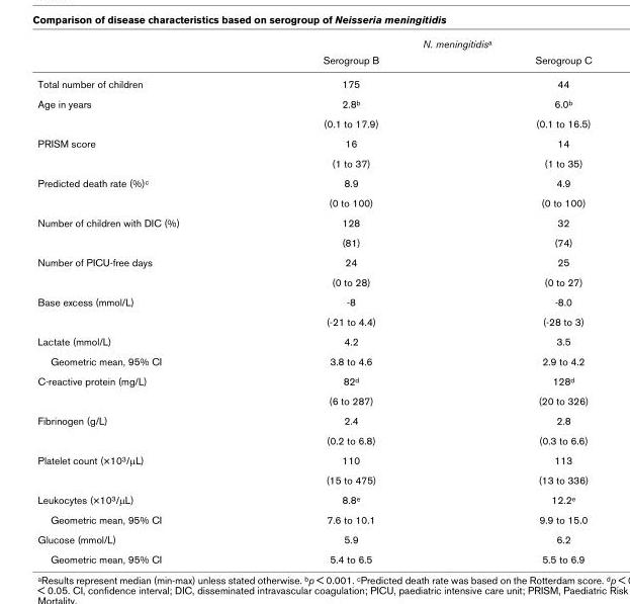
<table><thead><tr><td rowspan="2"></td><td colspan="2">N. meningitidis<sup>a</sup></td></tr><tr><td>Serogroup B</td><td>Serogroup C</td></tr></thead><tbody><tr><td>Total number of children</td><td>175</td><td>44</td></tr><tr><td rowspan="2">Age in years</td><td>2.8<sup>b</sup></td><td>6.0<sup>b</sup></td></tr><tr><td>(0.1 to 17.9)</td><td>(0.1 to 16.5)</td></tr><tr><td rowspan="2">PRISM score</td><td>16</td><td>14</td></tr><tr><td>(1 to 37)</td><td>(1 to 35)</td></tr><tr><td rowspan="2">Predicted death rate (%)<sup>c</sup></td><td>8.9</td><td>4.9</td></tr><tr><td>(0 to 100)</td><td>(0 to 100)</td></tr><tr><td rowspan="2">Number of children with DIC (%)</td><td>128</td><td>32</td></tr><tr><td>(81)</td><td>(74)</td></tr><tr><td rowspan="2">Number of PICU-free days</td><td>24</td><td>25</td></tr><tr><td>(0 to 28)</td><td>(0 to 27)</td></tr><tr><td rowspan="2">Base excess (mmol/L)</td><td>-8</td><td>-8.0</td></tr><tr><td>(-21 to 4.4)</td><td>(-28 to 3)</td></tr><tr><td>Lactate (mmol/L)</td><td>4.2</td><td>3.5</td></tr><tr><td>Geometric mean, 95% CI</td><td>3.8 to 4.6</td><td>2.9 to 4.2</td></tr><tr><td rowspan="2">C-reactive protein (mg/L)</td><td>82<sup>d</sup></td><td>128<sup>d</sup></td></tr><tr><td>(6 to 287)</td><td>(20 to 326)</td></tr><tr><td rowspan="2">Fibrinogen (g/L)</td><td>2.4</td><td>2.8</td></tr><tr><td>(0.2 to 6.8)</td><td>(0.3 to 6.6)</td></tr><tr><td rowspan="2">Platelet count (×10<sup>3</sup>/μL)</td><td>110</td><td>113</td></tr><tr><td>(15 to 475)</td><td>(13 to 336)</td></tr><tr><td>Leukocytes (×10<sup>3</sup>/μL)</td><td>8.8<sup>e</sup></td><td>12.2<sup>e</sup></td></tr><tr><td>Geometric mean, 95% CI</td><td>7.6 to 10.1</td><td>9.9 to 15.0</td></tr><tr><td>Glucose (mmol/L)</td><td>5.9</td><td>6.2</td></tr><tr><td>Geometric mean, 95% CI</td><td>5.4 to 6.5</td><td>5.5 to 6.9</td></tr></tbody></table>